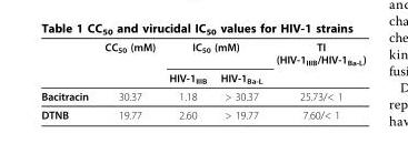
<table><thead><tr><td rowspan="2"></td><td rowspan="2">CC<sub>50</sub> (mM)</td><td colspan="2">IC<sub>50</sub> (mM)</td><td rowspan="2">TI (HIV-1<sub>IIIB</sub>/HIV-1<sub>Ba-L</sub>)</td></tr><tr><td>HIV-1<sub>IIIB</sub></td><td>HIV-1<sub>Ba-L</sub></td></tr></thead><tbody><tr><td>Bacitracin</td><td>30.37</td><td>1.18</td><td>&gt; 30.37</td><td>25.73/&lt; 1</td></tr><tr><td>DTNB</td><td>19.77</td><td>2.60</td><td>&gt; 19.77</td><td>7.60/&lt; 1</td></tr></tbody></table>